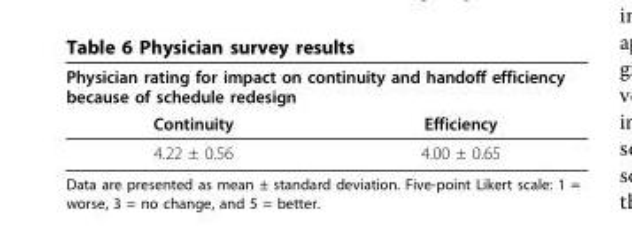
<table><thead><tr><td colspan="2">Physician rating for impact on continuity and handoff efficiency because of schedule redesign</td></tr><tr><td>Continuity</td><td>Efficiency</td></tr></thead><tbody><tr><td>4.22 ± 0.56</td><td>4.00 ± 0.65</td></tr></tbody></table>